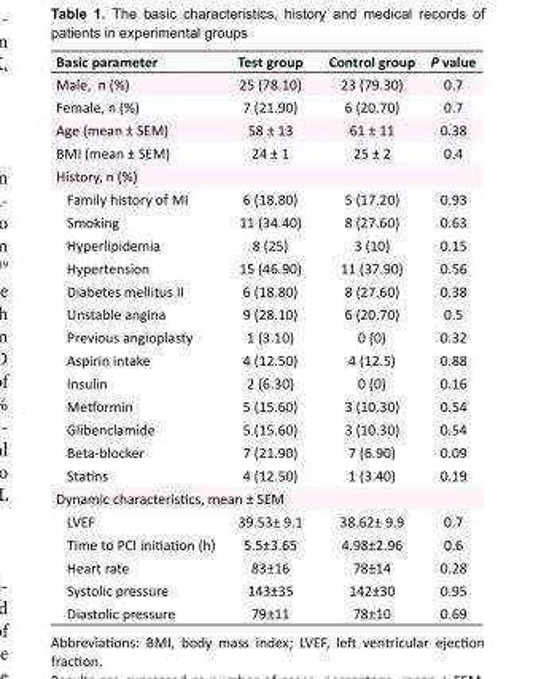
<table><tbody><tr><td>Basic parameter</td><td>Test group</td><td>Control group</td><td>P value</td></tr><tr><td>Male, n (%)</td><td>25 (78.10)</td><td>23 (79.30)</td><td>0.7</td></tr><tr><td>Female, n (%)</td><td>7 (21.90)</td><td>6 (20.70)</td><td>0.7</td></tr><tr><td>Age (mean ± SEM)</td><td>58 ± 13</td><td>61 ± 11</td><td>0.38</td></tr><tr><td>BMI (mean ± SEM)</td><td>24 ± 1</td><td>25 ± 2</td><td>0.4</td></tr><tr><td colspan="4">History, n (%)</td></tr><tr><td>Family history of MI</td><td>6 (18.80)</td><td>5 (17.20)</td><td>0.93</td></tr><tr><td>Smoking</td><td>11 (34.40)</td><td>8 (27.60)</td><td>0.63</td></tr><tr><td>Hyperlipidemia</td><td>8 (25)</td><td>3 (10)</td><td>0.15</td></tr><tr><td>Hypertension</td><td>15 (46.90)</td><td>11 (37.90)</td><td>0.56</td></tr><tr><td>Diabetes mellitus II</td><td>6 (18.80)</td><td>8 (27.60)</td><td>0.38</td></tr><tr><td>Unstable angina</td><td>9 (28.10)</td><td>6 (20.70)</td><td>0.5</td></tr><tr><td>Previous angioplasty</td><td>1 (3.10)</td><td>0 (0)</td><td>0.32</td></tr><tr><td>Aspirin intake</td><td>4 (12.50)</td><td>4 (12.5)</td><td>0.88</td></tr><tr><td>Insulin</td><td>2 (6.30)</td><td>0 (0)</td><td>0.16</td></tr><tr><td>Metformin</td><td>5 (15.60)</td><td>3 (10.30)</td><td>0.54</td></tr><tr><td>Glibenclamide</td><td>5 (15.60)</td><td>3 (10.30)</td><td>0.54</td></tr><tr><td>Beta-blocker</td><td>7 (21.90)</td><td>7 (6.90)</td><td>0.09</td></tr><tr><td>Statins</td><td>4 (12.50)</td><td>1 (3.40)</td><td>0.19</td></tr><tr><td colspan="4">Dynamic characteristics, mean ± SEM</td></tr><tr><td>LVEF</td><td>39.53± 9.1</td><td>38.62± 9.9</td><td>0.7</td></tr><tr><td>Time to PCI initiation (h)</td><td>5.5±3.65</td><td>4.98±2.96</td><td>0.6</td></tr><tr><td>Heart rate</td><td>83±16</td><td>78±14</td><td>0.28</td></tr><tr><td>Systolic pressure</td><td>143±35</td><td>142±30</td><td>0.95</td></tr><tr><td>Diastolic pressure</td><td>79±11</td><td>78±10</td><td>0.69</td></tr></tbody></table>